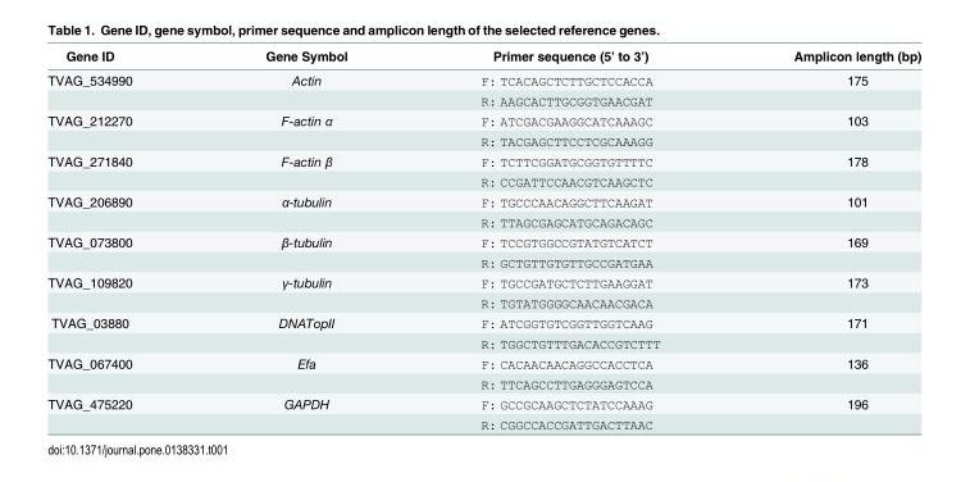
<table><thead><tr><td>Gene ID</td><td>Gene Symbol</td><td>Primer sequence (5’ to 3’)</td><td>Amplicon length (bp)</td></tr></thead><tbody><tr><td rowspan="2">TVAG_534990</td><td>Actin</td><td>F: TCACAGCTCTTGCTCCACCA</td><td>175</td></tr><tr><td></td><td>R: AAGCACTTGCGGTGAACGAT</td><td></td></tr><tr><td rowspan="2">TVAG_212270</td><td>F-actin α</td><td>F: ATCGACGAAGGCATCAAAGC</td><td>103</td></tr><tr><td></td><td>R: TACGAGCTTCCTCGCAAAGG</td><td></td></tr><tr><td rowspan="2">TVAG_271840</td><td>F-actin β</td><td>F: TCTTCGGATGCGGTGTTTTC</td><td>178</td></tr><tr><td></td><td>R: CCGATTCCAACGTCAAGCTC</td><td></td></tr><tr><td rowspan="2">TVAG_206890</td><td>α-tubulin</td><td>F: TGCCCAACAGGCTTCAAGAT</td><td>101</td></tr><tr><td></td><td>R: TTAGCGAGCATGCAGACAGC</td><td></td></tr><tr><td rowspan="2">TVAG_073800</td><td>β-tubulin</td><td>F: TCCGTGGCCGTATGTCATCT</td><td>169</td></tr><tr><td></td><td>R: GCTGTTGTGTTGCCGATGAA</td><td></td></tr><tr><td rowspan="2">TVAG_109820</td><td>γ-tubulin</td><td>F: TGCCGATGCTCTTGAAGGAT</td><td>173</td></tr><tr><td></td><td>R: TGTATGGGGCAACAACGACA</td><td></td></tr><tr><td rowspan="2">TVAG_03880</td><td>DNATopII</td><td>F: ATCGGTGTCGGTTGGTCAAG</td><td>171</td></tr><tr><td></td><td>R: TGGCTGTTTGACACCGTCTTT</td><td></td></tr><tr><td rowspan="2">TVAG_067400</td><td>Efa</td><td>F: CACAACAACAGGCCACCTCA</td><td>136</td></tr><tr><td></td><td>R: TTCAGCCTTGAGGGAGTCCA</td><td></td></tr><tr><td rowspan="2">TVAG_475220</td><td>GAPDH</td><td>F: GCCGCAAGCTCTATCCAAAG</td><td>196</td></tr><tr><td></td><td>R: CGGCCACCGATTGACTTAAC</td><td></td></tr></tbody></table>